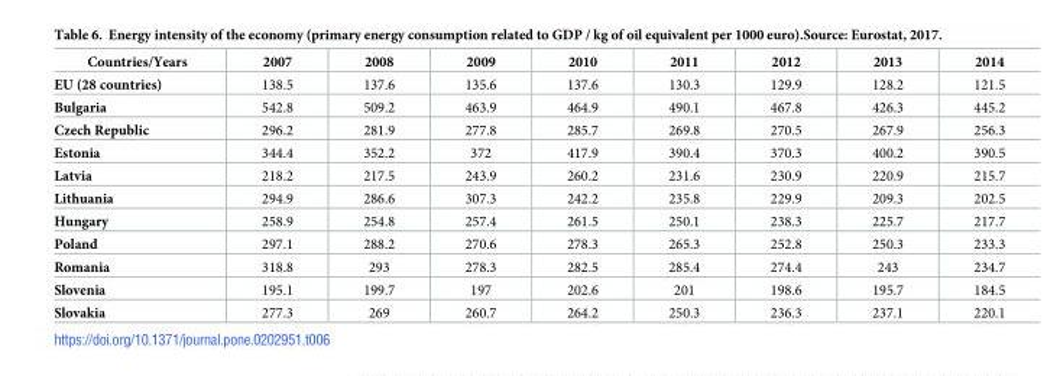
<table><thead><tr><td>Countries/Years</td><td>2007</td><td>2008</td><td>2009</td><td>2010</td><td>2011</td><td>2012</td><td>2013</td><td>2014</td></tr></thead><tbody><tr><td>EU (28 countries)</td><td>138.5</td><td>137.6</td><td>135.6</td><td>137.6</td><td>130.3</td><td>129.9</td><td>128.2</td><td>121.5</td></tr><tr><td>Bulgaria</td><td>542.8</td><td>509.2</td><td>463.9</td><td>464.9</td><td>490.1</td><td>467.8</td><td>426.3</td><td>445.2</td></tr><tr><td>Czech Republic</td><td>296.2</td><td>281.9</td><td>277.8</td><td>285.7</td><td>269.8</td><td>270.5</td><td>267.9</td><td>256.3</td></tr><tr><td>Estonia</td><td>344.4</td><td>352.2</td><td>372</td><td>417.9</td><td>390.4</td><td>370.3</td><td>400.2</td><td>390.5</td></tr><tr><td>Latvia</td><td>218.2</td><td>217.5</td><td>243.9</td><td>260.2</td><td>231.6</td><td>230.9</td><td>220.9</td><td>215.7</td></tr><tr><td>Lithuania</td><td>294.9</td><td>286.6</td><td>307.3</td><td>242.2</td><td>235.8</td><td>229.9</td><td>209.3</td><td>202.5</td></tr><tr><td>Hungary</td><td>258.9</td><td>254.8</td><td>257.4</td><td>261.5</td><td>250.1</td><td>238.3</td><td>225.7</td><td>217.7</td></tr><tr><td>Poland</td><td>297.1</td><td>288.2</td><td>270.6</td><td>278.3</td><td>265.3</td><td>252.8</td><td>250.3</td><td>233.3</td></tr><tr><td>Romania</td><td>318.8</td><td>293</td><td>278.3</td><td>282.5</td><td>285.4</td><td>274.4</td><td>243</td><td>234.7</td></tr><tr><td>Slovenia</td><td>195.1</td><td>199.7</td><td>197</td><td>202.6</td><td>201</td><td>198.6</td><td>195.7</td><td>184.5</td></tr><tr><td>Slovakia</td><td>277.3</td><td>269</td><td>260.7</td><td>264.2</td><td>250.3</td><td>236.3</td><td>237.1</td><td>220.1</td></tr></tbody></table>